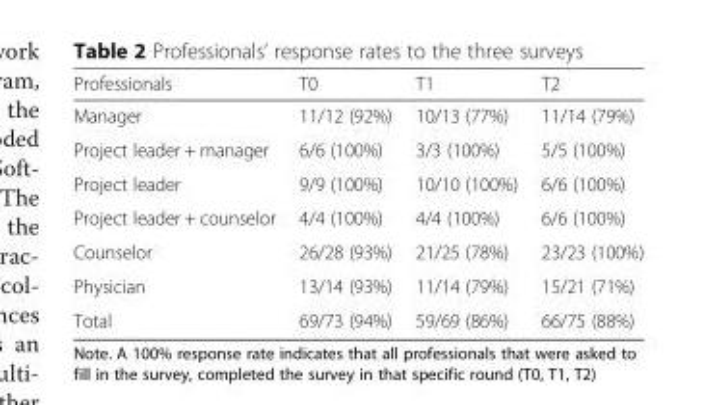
<table><thead><tr><td>Professionals</td><td>T0</td><td>T1</td><td>T2</td></tr></thead><tbody><tr><td>Manager</td><td>11/12 (92%)</td><td>10/13 (77%)</td><td>11/14 (79%)</td></tr><tr><td>Project leader + manager</td><td>6/6 (100%)</td><td>3/3 (100%)</td><td>5/5 (100%)</td></tr><tr><td>Project leader</td><td>9/9 (100%)</td><td>10/10 (100%)</td><td>6/6 (100%)</td></tr><tr><td>Project leader + counselor</td><td>4/4 (100%)</td><td>4/4 (100%)</td><td>6/6 (100%)</td></tr><tr><td>Counselor</td><td>26/28 (93%)</td><td>21/25 (78%)</td><td>23/23 (100%)</td></tr><tr><td>Physician</td><td>13/14 (93%)</td><td>11/14 (79%)</td><td>15/21 (71%)</td></tr><tr><td>Total</td><td>69/73 (94%)</td><td>59/69 (86%)</td><td>66/75 (88%)</td></tr></tbody></table>